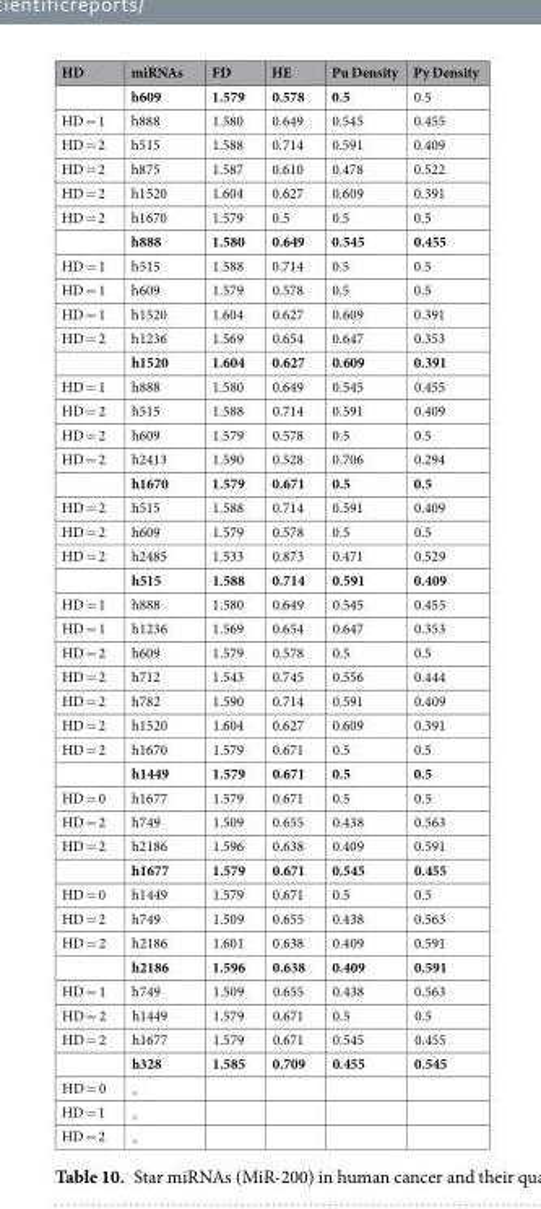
<table><thead><tr><td>HD</td><td>miRNAs</td><td>FD</td><td>HE</td><td>Pu Density</td><td>Py Density</td></tr></thead><tbody><tr><td></td><td>h609</td><td>1.579</td><td>0.578</td><td>0.5</td><td>0.5</td></tr><tr><td>HD = 1</td><td>h888</td><td>1.580</td><td>0.649</td><td>0.545</td><td>0.455</td></tr><tr><td>HD = 2</td><td>h515</td><td>1.588</td><td>0.714</td><td>0.591</td><td>0.409</td></tr><tr><td>HD = 2</td><td>h875</td><td>1.587</td><td>0.610</td><td>0.478</td><td>0.522</td></tr><tr><td>HD = 2</td><td>h1520</td><td>1.604</td><td>0.627</td><td>0.609</td><td>0.391</td></tr><tr><td rowspan="2">HD = 2</td><td>h1670</td><td>1.579</td><td>0.5</td><td>0.5</td><td>0.5</td></tr><tr><td>h888</td><td>1.580</td><td>0.649</td><td>0.545</td><td>0.455</td></tr><tr><td>HD = 1</td><td>h515</td><td>1.588</td><td>0.714</td><td>0.5</td><td>0.5</td></tr><tr><td>HD = 1</td><td>h609</td><td>1.579</td><td>0.578</td><td>0.5</td><td>0.5</td></tr><tr><td>HD = 1</td><td>h1520</td><td>1.604</td><td>0.627</td><td>0.609</td><td>0.391</td></tr><tr><td rowspan="2">HD = 2</td><td>h1236</td><td>1.569</td><td>0.654</td><td>0.647</td><td>0.353</td></tr><tr><td>h1520</td><td>1.604</td><td>0.627</td><td>0.609</td><td>0.391</td></tr><tr><td>HD = 1</td><td>h888</td><td>1.580</td><td>0.649</td><td>0.545</td><td>0.455</td></tr><tr><td>HD = 2</td><td>h515</td><td>1.588</td><td>0.714</td><td>0.591</td><td>0.409</td></tr><tr><td>HD = 2</td><td>h609</td><td>1.579</td><td>0.578</td><td>0.5</td><td>0.5</td></tr><tr><td rowspan="2">HD = 2</td><td>h2413</td><td>1.590</td><td>0.528</td><td>0.706</td><td>0.294</td></tr><tr><td>h1670</td><td>1.579</td><td>0.671</td><td>0.5</td><td>0.5</td></tr><tr><td>HD = 2</td><td>h515</td><td>1.588</td><td>0.714</td><td>0.591</td><td>0.409</td></tr><tr><td>HD = 2</td><td>h609</td><td>1.579</td><td>0.578</td><td>0.5</td><td>0.5</td></tr><tr><td rowspan="2">HD = 2</td><td>h2485</td><td>1.533</td><td>0.873</td><td>0.471</td><td>0.529</td></tr><tr><td>h515</td><td>1.588</td><td>0.714</td><td>0.591</td><td>0.409</td></tr><tr><td>HD = 1</td><td>h888</td><td>1.580</td><td>0.649</td><td>0.545</td><td>0.455</td></tr><tr><td>HD = 1</td><td>h1236</td><td>1.569</td><td>0.654</td><td>0.647</td><td>0.353</td></tr><tr><td>HD = 2</td><td>h609</td><td>1.579</td><td>0.578</td><td>0.5</td><td>0.5</td></tr><tr><td>HD = 2</td><td>h712</td><td>1.543</td><td>0.745</td><td>0.556</td><td>0.444</td></tr><tr><td>HD = 2</td><td>h782</td><td>1.590</td><td>0.714</td><td>0.591</td><td>0.409</td></tr><tr><td>HD = 2</td><td>h1520</td><td>1.604</td><td>0.627</td><td>0.609</td><td>0.391</td></tr><tr><td rowspan="2">HD = 2</td><td>h1670</td><td>1.579</td><td>0.671</td><td>0.5</td><td>0.5</td></tr><tr><td>h1449</td><td>1.579</td><td>0.671</td><td>0.5</td><td>0.5</td></tr><tr><td>HD = 0</td><td>h1677</td><td>1.579</td><td>0.671</td><td>0.5</td><td>0.5</td></tr><tr><td>HD = 2</td><td>h749</td><td>1.509</td><td>0.655</td><td>0.438</td><td>0.563</td></tr><tr><td rowspan="2">HD = 2</td><td>h2186</td><td>1.596</td><td>0.638</td><td>0.409</td><td>0.591</td></tr><tr><td>h1677</td><td>1.579</td><td>0.671</td><td>0.545</td><td>0.455</td></tr><tr><td>HD = 0</td><td>h1449</td><td>1.579</td><td>0.671</td><td>0.5</td><td>0.5</td></tr><tr><td>HD = 2</td><td>h749</td><td>1.509</td><td>0.655</td><td>0.438</td><td>0.563</td></tr><tr><td rowspan="2">HD = 2</td><td>h2186</td><td>1.601</td><td>0.638</td><td>0.409</td><td>0.591</td></tr><tr><td>h2186</td><td>1.596</td><td>0.638</td><td>0.409</td><td>0.591</td></tr><tr><td>HD = 1</td><td>h749</td><td>1.509</td><td>0.655</td><td>0.438</td><td>0.563</td></tr><tr><td>HD = 2</td><td>h1449</td><td>1.579</td><td>0.671</td><td>0.5</td><td>0.5</td></tr><tr><td rowspan="2">HD = 2</td><td>h1677</td><td>1.579</td><td>0.671</td><td>0.545</td><td>0.455</td></tr><tr><td>h328</td><td>1.585</td><td>0.709</td><td>0.455</td><td>0.545</td></tr><tr><td>HD = 0</td><td><sub>×</sub></td><td></td><td></td><td></td><td></td></tr><tr><td>HD = 1</td><td><sub>×</sub></td><td></td><td></td><td></td><td></td></tr><tr><td>HD = 2</td><td><sub>×</sub></td><td></td><td></td><td></td><td></td></tr></tbody></table>